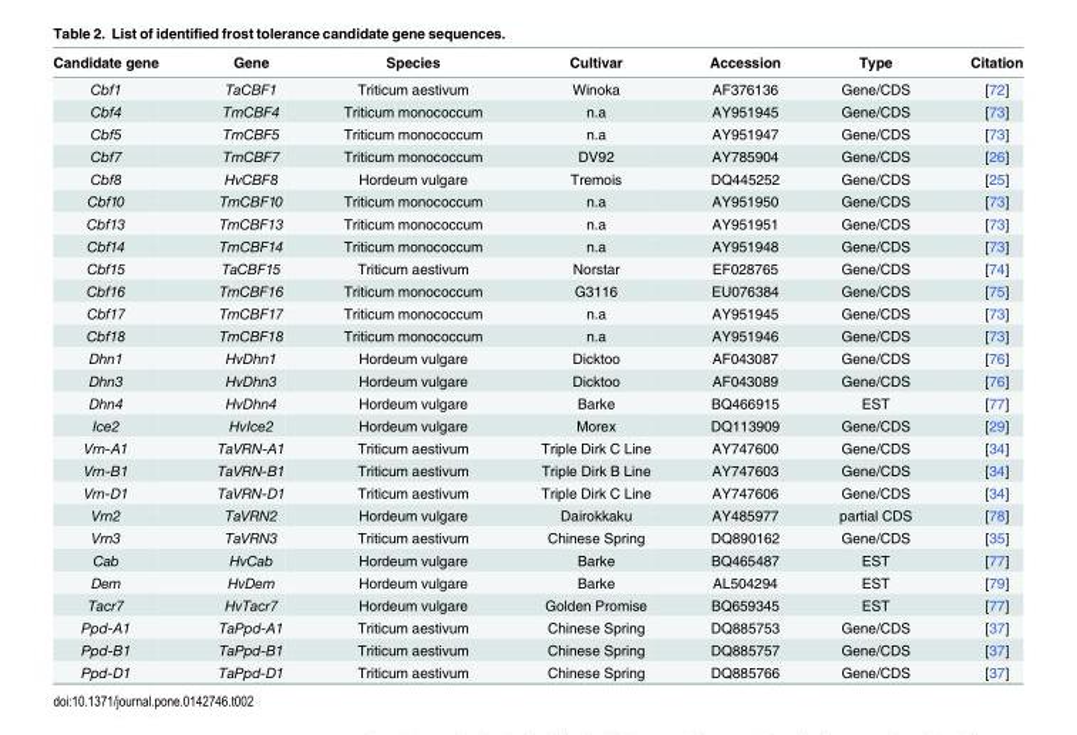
<table><thead><tr><td>Candidate gene</td><td>Gene</td><td>Species</td><td>Cultivar</td><td>Accession</td><td>Type</td><td>Citation</td></tr></thead><tbody><tr><td>Cbf1</td><td>TaCBF1</td><td>Triticum aestivum</td><td>Winoka</td><td>AF376136</td><td>Gene/CDS</td><td>[72]</td></tr><tr><td>Cbf4</td><td>TmCBF4</td><td>Triticum monococcum</td><td>n.a</td><td>AY951945</td><td>Gene/CDS</td><td>[73]</td></tr><tr><td>Cbf5</td><td>TmCBF5</td><td>Triticum monococcum</td><td>n.a</td><td>AY951947</td><td>Gene/CDS</td><td>[73]</td></tr><tr><td>Cbf7</td><td>TmCBF7</td><td>Triticum monococcum</td><td>DV92</td><td>AY785904</td><td>Gene/CDS</td><td>[26]</td></tr><tr><td>Cbf8</td><td>HvCBF8</td><td>Hordeum vulgare</td><td>Tremois</td><td>DQ445252</td><td>Gene/CDS</td><td>[25]</td></tr><tr><td>Cbf10</td><td>TmCBF10</td><td>Triticum monococcum</td><td>n.a</td><td>AY951950</td><td>Gene/CDS</td><td>[73]</td></tr><tr><td>Cbf13</td><td>TmCBF13</td><td>Triticum monococcum</td><td>n.a</td><td>AY951951</td><td>Gene/CDS</td><td>[73]</td></tr><tr><td>Cbf14</td><td>TmCBF14</td><td>Triticum monococcum</td><td>n.a</td><td>AY951948</td><td>Gene/CDS</td><td>[73]</td></tr><tr><td>Cbf15</td><td>TaCBF15</td><td>Triticum aestivum</td><td>Norstar</td><td>EF028765</td><td>Gene/CDS</td><td>[74]</td></tr><tr><td>Cbf16</td><td>TmCBF16</td><td>Triticum monococcum</td><td>G3116</td><td>EU076384</td><td>Gene/CDS</td><td>[75]</td></tr><tr><td>Cbf17</td><td>TmCBF17</td><td>Triticum monococcum</td><td>n.a</td><td>AY951945</td><td>Gene/CDS</td><td>[73]</td></tr><tr><td>Cbf18</td><td>TmCBF18</td><td>Triticum monococcum</td><td>n.a</td><td>AY951946</td><td>Gene/CDS</td><td>[73]</td></tr><tr><td>Dhn1</td><td>HvDhn1</td><td>Hordeum vulgare</td><td>Dicktoo</td><td>AF043087</td><td>Gene/CDS</td><td>[76]</td></tr><tr><td>Dhn3</td><td>HvDhn3</td><td>Hordeum vulgare</td><td>Dicktoo</td><td>AF043089</td><td>Gene/CDS</td><td>[76]</td></tr><tr><td>Dhn4</td><td>HvDhn4</td><td>Hordeum vulgare</td><td>Barke</td><td>BQ466915</td><td>EST</td><td>[77]</td></tr><tr><td>Ice2</td><td>HvIce2</td><td>Hordeum vulgare</td><td>Morex</td><td>DQ113909</td><td>Gene/CDS</td><td>[29]</td></tr><tr><td>Vrn-A1</td><td>TaVRN-A1</td><td>Triticum aestivum</td><td>Triple Dirk C Line</td><td>AY747600</td><td>Gene/CDS</td><td>[34]</td></tr><tr><td>Vrn-B1</td><td>TaVRN-B1</td><td>Triticum aestivum</td><td>Triple Dirk B Line</td><td>AY747603</td><td>Gene/CDS</td><td>[34]</td></tr><tr><td>Vrn-D1</td><td>TaVRN-D1</td><td>Triticum aestivum</td><td>Triple Dirk C Line</td><td>AY747606</td><td>Gene/CDS</td><td>[34]</td></tr><tr><td>Vrn2</td><td>TaVRN2</td><td>Hordeum vulgare</td><td>Dairokkaku</td><td>AY485977</td><td>partial CDS</td><td>[78]</td></tr><tr><td>Vrn3</td><td>TaVRN3</td><td>Triticum aestivum</td><td>Chinese Spring</td><td>DQ890162</td><td>Gene/CDS</td><td>[35]</td></tr><tr><td>Cab</td><td>HvCab</td><td>Hordeum vulgare</td><td>Barke</td><td>BQ465487</td><td>EST</td><td>[77]</td></tr><tr><td>Dem</td><td>HvDem</td><td>Hordeum vulgare</td><td>Barke</td><td>AL504294</td><td>EST</td><td>[79]</td></tr><tr><td>Tacr7</td><td>HvTacr7</td><td>Hordeum vulgare</td><td>Golden Promise</td><td>BQ659345</td><td>EST</td><td>[77]</td></tr><tr><td>Ppd-A1</td><td>TaPpd-A1</td><td>Triticum aestivum</td><td>Chinese Spring</td><td>DQ885753</td><td>Gene/CDS</td><td>[37]</td></tr><tr><td>Ppd-B1</td><td>TaPpd-B1</td><td>Triticum aestivum</td><td>Chinese Spring</td><td>DQ885757</td><td>Gene/CDS</td><td>[37]</td></tr><tr><td>Ppd-D1</td><td>TaPpd-D1</td><td>Triticum aestivum</td><td>Chinese Spring</td><td>DQ885766</td><td>Gene/CDS</td><td>[37]</td></tr></tbody></table>